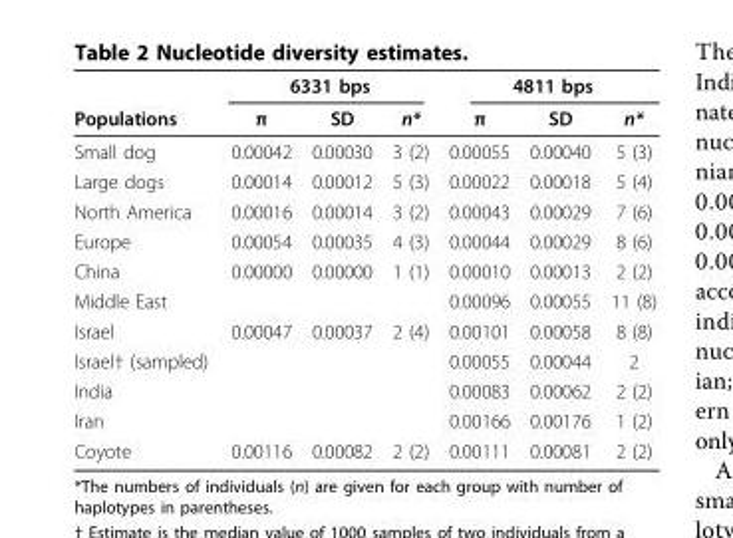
<table><thead><tr><td rowspan="2">Populations</td><td colspan="3">6331 bps</td><td colspan="3">4811 bps</td></tr><tr><td>π</td><td>SD</td><td>n*</td><td>π</td><td>SD</td><td>n*</td></tr></thead><tbody><tr><td>Small dog</td><td>0.00042</td><td>0.00030</td><td>3 (2)</td><td>0.00055</td><td>0.00040</td><td>5 (3)</td></tr><tr><td>Large dogs</td><td>0.00014</td><td>0.00012</td><td>5 (3)</td><td>0.00022</td><td>0.00018</td><td>5 (4)</td></tr><tr><td>North America</td><td>0.00016</td><td>0.00014</td><td>3 (2)</td><td>0.00043</td><td>0.00029</td><td>7 (6)</td></tr><tr><td>Europe</td><td>0.00054</td><td>0.00035</td><td>4 (3)</td><td>0.00044</td><td>0.00029</td><td>8 (6)</td></tr><tr><td>China</td><td>0.00000</td><td>0.00000</td><td>1 (1)</td><td>0.00010</td><td>0.00013</td><td>2 (2)</td></tr><tr><td>Middle East</td><td></td><td></td><td></td><td>0.00096</td><td>0.00055</td><td>11 (8)</td></tr><tr><td>Israel</td><td>0.00047</td><td>0.00037</td><td>2 (4)</td><td>0.00101</td><td>0.00058</td><td>8 (8)</td></tr><tr><td>Israel† (sampled)</td><td></td><td></td><td></td><td>0.00055</td><td>0.00044</td><td>2</td></tr><tr><td>India</td><td></td><td></td><td></td><td>0.00083</td><td>0.00062</td><td>2 (2)</td></tr><tr><td>Iran</td><td></td><td></td><td></td><td>0.00166</td><td>0.00176</td><td>1 (2)</td></tr><tr><td>Coyote</td><td>0.00116</td><td>0.00082</td><td>2 (2)</td><td>0.00111</td><td>0.00081</td><td>2 (2)</td></tr></tbody></table>